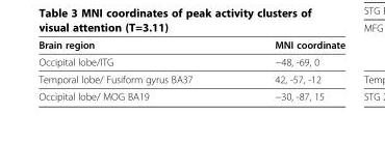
<table><thead><tr><td>Brain region</td><td>MNI coordinate</td></tr></thead><tbody><tr><td>Occipital lobe/ITG</td><td>−48, -69, 0</td></tr><tr><td>Temporal lobe/ Fusiform gyrus BA37</td><td>42, -57, -12</td></tr><tr><td>Occipital lobe/ MOG BA19</td><td>−30, -87, 15</td></tr></tbody></table>